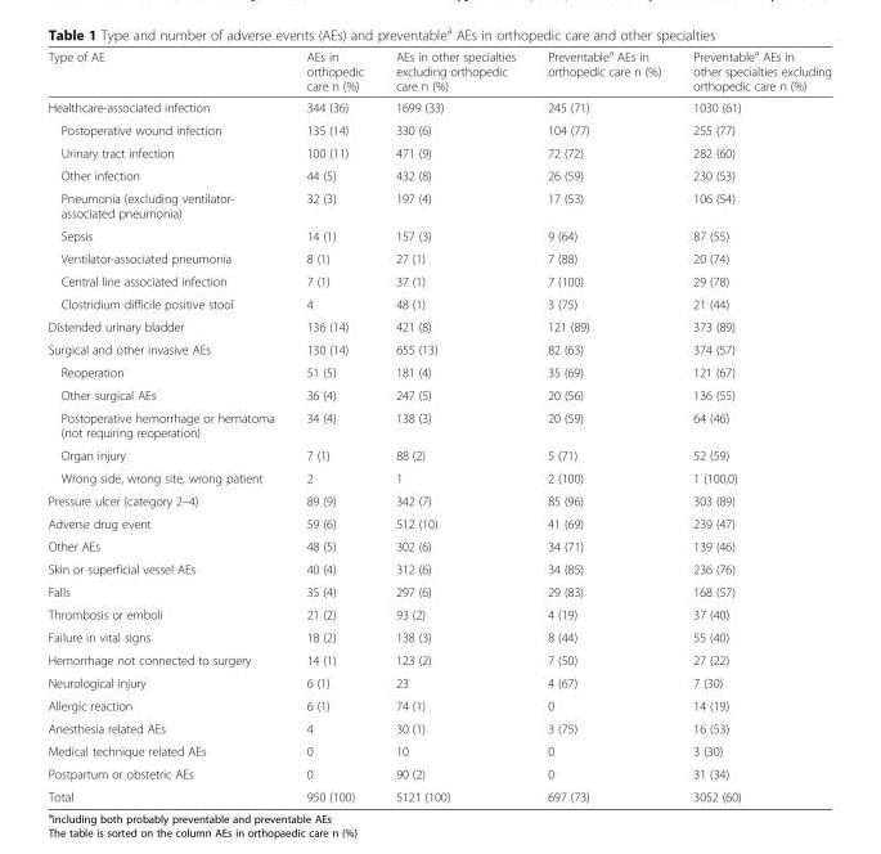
<table><thead><tr><td>Type of AE</td><td>AEs in orthopedic care n (%)</td><td>AEs in other specialties excluding orthopedic care n (%)</td><td>Preventable<sup>a</sup> AEs in orthopedic care n (%)</td><td>Preventable<sup>a</sup> AEs in other specialties excluding orthopedic care n (%)</td></tr></thead><tbody><tr><td>Healthcare-associated infection</td><td>344 (36)</td><td>1699 (33)</td><td>245 (71)</td><td>1030 (61)</td></tr><tr><td>Postoperative wound infection</td><td>135 (14)</td><td>330 (6)</td><td>104 (77)</td><td>255 (77)</td></tr><tr><td>Urinary tract infection</td><td>100 (11)</td><td>471 (9)</td><td>72 (72)</td><td>282 (60)</td></tr><tr><td>Other infection</td><td>44 (5)</td><td>432 (8)</td><td>26 (59)</td><td>230 (53)</td></tr><tr><td>Pneumonia (excluding ventilator- associated pneumonia)</td><td>32 (3)</td><td>197 (4)</td><td>17 (53)</td><td>106 (54)</td></tr><tr><td>Sepsis</td><td>14 (1)</td><td>157 (3)</td><td>9 (64)</td><td>87 (55)</td></tr><tr><td>Ventilator-associated pneumonia</td><td>8 (1)</td><td>27 (1)</td><td>7 (88)</td><td>20 (74)</td></tr><tr><td>Central line associated infection</td><td>7 (1)</td><td>37 (1)</td><td>7 (100)</td><td>29 (78)</td></tr><tr><td>Clostridium difficile positive stool</td><td>4</td><td>48 (1)</td><td>3 (75)</td><td>21 (44)</td></tr><tr><td>Distended urinary bladder</td><td>136 (14)</td><td>421 (8)</td><td>121 (89)</td><td>373 (89)</td></tr><tr><td>Surgical and other invasive AEs</td><td>130 (14)</td><td>655 (13)</td><td>82 (63)</td><td>374 (57)</td></tr><tr><td>Reoperation</td><td>51 (5)</td><td>181 (4)</td><td>35 (69)</td><td>121 (67)</td></tr><tr><td>Other surgical AEs</td><td>36 (4)</td><td>247 (5)</td><td>20 (56)</td><td>136 (55)</td></tr><tr><td>Postoperative hemorrhage or hematoma (not requiring reoperation)</td><td>34 (4)</td><td>138 (3)</td><td>20 (59)</td><td>64 (46)</td></tr><tr><td>Organ injury</td><td>7 (1)</td><td>88 (2)</td><td>5 (71)</td><td>52 (59)</td></tr><tr><td>Wrong side, wrong site, wrong patient</td><td>2</td><td>1</td><td>2 (100)</td><td>1 (100,0)</td></tr><tr><td>Pressure ulcer (category 2–4)</td><td>89 (9)</td><td>342 (7)</td><td>85 (96)</td><td>303 (89)</td></tr><tr><td>Adverse drug event</td><td>59 (6)</td><td>512 (10)</td><td>41 (69)</td><td>239 (47)</td></tr><tr><td>Other AEs</td><td>48 (5)</td><td>302 (6)</td><td>34 (71)</td><td>139 (46)</td></tr><tr><td>Skin or superficial vessel AEs</td><td>40 (4)</td><td>312 (6)</td><td>34 (85)</td><td>236 (76)</td></tr><tr><td>Falls</td><td>35 (4)</td><td>297 (6)</td><td>29 (83)</td><td>168 (57)</td></tr><tr><td>Thrombosis or emboli</td><td>21 (2)</td><td>93 (2)</td><td>4 (19)</td><td>37 (40)</td></tr><tr><td>Failure in vital signs</td><td>18 (2)</td><td>138 (3)</td><td>8 (44)</td><td>55 (40)</td></tr><tr><td>Hemorrhage not connected to surgery</td><td>14 (1)</td><td>123 (2)</td><td>7 (50)</td><td>27 (22)</td></tr><tr><td>Neurological injury</td><td>6 (1)</td><td>23</td><td>4 (67)</td><td>7 (30)</td></tr><tr><td>Allergic reaction</td><td>6 (1)</td><td>74 (1)</td><td>0</td><td>14 (19)</td></tr><tr><td>Anesthesia related AEs</td><td>4</td><td>30 (1)</td><td>3 (75)</td><td>16 (53)</td></tr><tr><td>Medical technique related AEs</td><td>0</td><td>10</td><td>0</td><td>3 (30)</td></tr><tr><td>Postpartum or obstetric AEs</td><td>0</td><td>90 (2)</td><td>0</td><td>31 (34)</td></tr><tr><td>Total</td><td>950 (100)</td><td>5121 (100)</td><td>697 (73)</td><td>3052 (60)</td></tr></tbody></table>